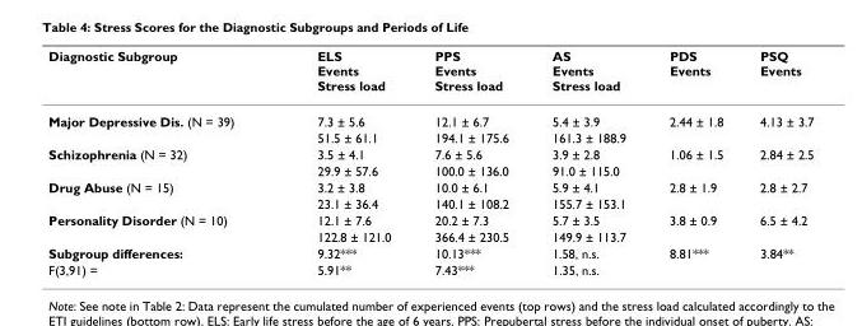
<table><thead><tr><td>Diagnostic Subgroup</td><td>ELS Events Stress load</td><td>PPS Events Stress load</td><td>AS Events Stress load</td><td>PDS Events</td><td>PSQ Events</td></tr></thead><tbody><tr><td rowspan="2">Major Depressive Dis. (N = 39)</td><td>7.3 ± 5.6</td><td>12.1 ± 6.7</td><td>5.4 ± 3.9</td><td>2.44 ± 1.8</td><td>4.13 ± 3.7</td></tr><tr><td>51.5 ± 61.1</td><td>194.1 ± 175.6</td><td>161.3 ± 188.9</td><td></td><td></td></tr><tr><td rowspan="2">Schizophrenia (N = 32)</td><td>3.5 ± 4.1</td><td>7.6 ± 5.6</td><td>3.9 ± 2.8</td><td>1.06 ± 1.5</td><td>2.84 ± 2.5</td></tr><tr><td>29.9 ± 57.6</td><td>100.0 ± 136.0</td><td>91.0 ± 115.0</td><td></td><td></td></tr><tr><td rowspan="2">Drug Abuse (N = 15)</td><td>3.2 ± 3.8</td><td>10.0 ± 6.1</td><td>5.9 ± 4.1</td><td>2.8 ± 1.9</td><td>2.8 ± 2.7</td></tr><tr><td>23.1 ± 36.4</td><td>140.1 ± 108.2</td><td>155.7 ± 153.1</td><td></td><td></td></tr><tr><td rowspan="2">Personality Disorder (N = 10)</td><td>12.1 ± 7.6</td><td>20.2 ± 7.3</td><td>5.7 ± 3.5</td><td>3.8 ± 0.9</td><td>6.5 ± 4.2</td></tr><tr><td>122.8 ± 121.0</td><td>366.4 ± 230.5</td><td>149.9 ± 113.7</td><td></td><td></td></tr><tr><td>Subgroup differences:</td><td>9.32***</td><td>10.13***</td><td>1.58, n.s.</td><td>8.81***</td><td>3.84**</td></tr><tr><td>F(3,91) =</td><td>5.91**</td><td>7.43***</td><td>1.35, n.s.</td><td></td><td></td></tr></tbody></table>